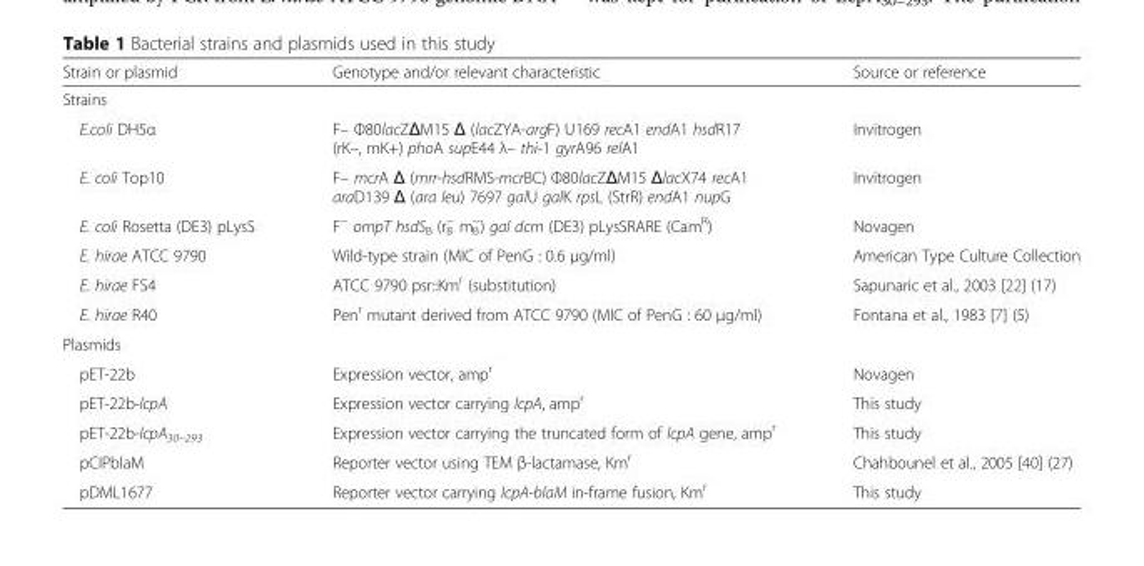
<table><thead><tr><td>Strain or plasmid</td><td>Genotype and/or relevant characteristic</td><td>Source or reference</td></tr></thead><tbody><tr><td colspan="3">Strains</td></tr><tr><td>E.coli DH5α</td><td>F– Φ80lacZΔM15 Δ (lacZYA-argF) U169 recA1 endA1 hsdR17 (rK–, mK+) phoA supE44 λ– thi-1 gyrA96 relA1</td><td>Invitrogen</td></tr><tr><td>E. coli Top10</td><td>F– mcrA Δ (mrr-hsdRMS-mcrBC) Φ80lacZΔM15 ΔlacX74 recA1 araD139 Δ (ara leu) 7697 galU galK rpsL (StrR) endA1 nupG</td><td>Invitrogen</td></tr><tr><td>E. coli Rosetta (DE3) pLysS</td><td>F<sup>−</sup> ompT hsdS<sub>B</sub> (r<sub>B</sub> <sup>−</sup> m<sub>B</sub> <sup>−</sup>) gal dcm (DE3) pLysSRARE (Cam<sup>R</sup>)</td><td>Novagen</td></tr><tr><td>E. hirae ATCC 9790</td><td>Wild-type strain (MIC of PenG : 0.6 μg/ml)</td><td>American Type Culture Collection</td></tr><tr><td>E. hirae FS4</td><td>ATCC 9790 psr::Km<sup>r</sup> (substitution)</td><td>Sapunaric et al., 2003 [22] (17)</td></tr><tr><td>E. hirae R40</td><td>Pen<sup>r</sup> mutant derived from ATCC 9790 (MIC of PenG : 60 μg/ml)</td><td>Fontana et al., 1983 [7] (5)</td></tr><tr><td colspan="3">Plasmids</td></tr><tr><td>pET-22b</td><td>Expression vector, amp<sup>r</sup></td><td>Novagen</td></tr><tr><td>pET-22b-lcpA</td><td>Expression vector carrying lcpA, amp<sup>r</sup></td><td>This study</td></tr><tr><td>pET-22b-lcpA<sub>30–293</sub></td><td>Expression vector carrying the truncated form of lcpA gene, amp<sup>r</sup></td><td>This study</td></tr><tr><td>pCIPblaM</td><td>Reporter vector using TEM β-lactamase, Km<sup>r</sup></td><td>Chahbounel et al., 2005 [40] (27)</td></tr><tr><td>pDML1677</td><td>Reporter vector carrying lcpA-blaM in-frame fusion, Km<sup>r</sup></td><td>This study</td></tr></tbody></table>